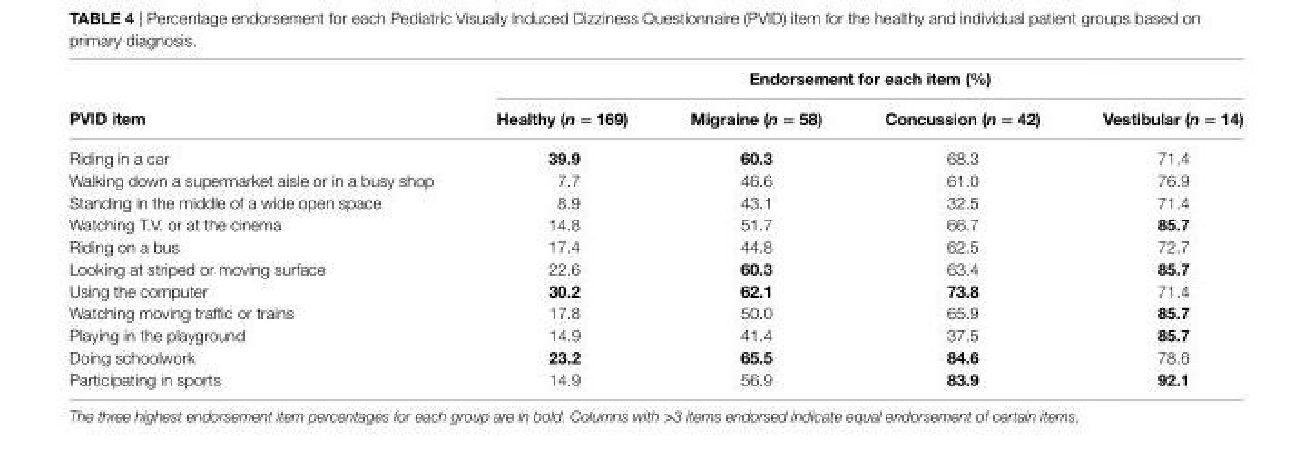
<table><thead><tr><td rowspan="2">PViD item</td><td colspan="4">endorsement for each item (%)</td></tr><tr><td>healthy (n = 169)</td><td>Migraine (n = 58)</td><td>concussion (n = 42)</td><td>Vestibular (n = 14)</td></tr></thead><tbody><tr><td>Riding in a car</td><td>39.9</td><td>60.3</td><td>68.3</td><td>71.4</td></tr><tr><td>Walking down a supermarket aisle or in a busy shop</td><td>7.7</td><td>46.6</td><td>61.0</td><td>76.9</td></tr><tr><td>Standing in the middle of a wide open space</td><td>8.9</td><td>43.1</td><td>32.5</td><td>71.4</td></tr><tr><td>Watching T.V. or at the cinema</td><td>14.8</td><td>51.7</td><td>66.7</td><td>85.7</td></tr><tr><td>Riding on a bus</td><td>17.4</td><td>44.8</td><td>62.5</td><td>72.7</td></tr><tr><td>Looking at striped or moving surface</td><td>22.6</td><td>60.3</td><td>63.4</td><td>85.7</td></tr><tr><td>Using the computer</td><td>30.2</td><td>62.1</td><td>73.8</td><td>71.4</td></tr><tr><td>Watching moving traffic or trains</td><td>17.8</td><td>50.0</td><td>65.9</td><td>85.7</td></tr><tr><td>Playing in the playground</td><td>14.9</td><td>41.4</td><td>37.5</td><td>85.7</td></tr><tr><td>Doing schoolwork</td><td>23.2</td><td>65.5</td><td>84.6</td><td>78.6</td></tr><tr><td>Participating in sports</td><td>14.9</td><td>56.9</td><td>83.9</td><td>92.1</td></tr></tbody></table>